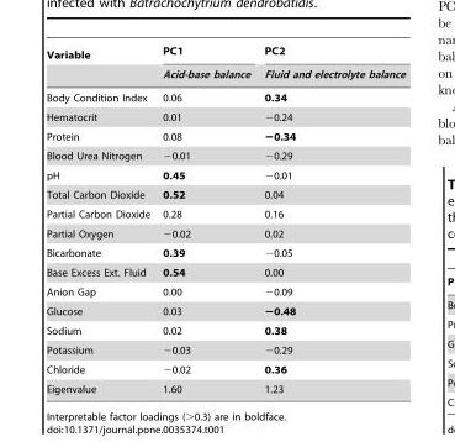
<table><thead><tr><td rowspan="2">Variable</td><td rowspan="2">PC1 Acid-base balance</td><td rowspan="2">PC2 Fluid and electrolyte balance</td></tr><tr></tr></thead><tbody><tr><td>Body Condition Index</td><td>0.06</td><td>0.34</td></tr><tr><td>Hematocrit</td><td>0.01</td><td>−0.24</td></tr><tr><td>Protein</td><td>0.08</td><td>−0.34</td></tr><tr><td>Blood Urea Nitrogen</td><td>−0.01</td><td>−0.29</td></tr><tr><td>pH</td><td>0.45</td><td>−0.01</td></tr><tr><td>Total Carbon Dioxide</td><td>0.52</td><td>0.04</td></tr><tr><td>Partial Carbon Dioxide</td><td>0.28</td><td>0.16</td></tr><tr><td>Partial Oxygen</td><td>−0.02</td><td>0.02</td></tr><tr><td>Bicarbonate</td><td>0.39</td><td>−0.05</td></tr><tr><td>Base Excess Ext. Fluid</td><td>0.54</td><td>0.00</td></tr><tr><td>Anion Gap</td><td>0.00</td><td>−0.09</td></tr><tr><td>Glucose</td><td>0.03</td><td>−0.48</td></tr><tr><td>Sodium</td><td>0.02</td><td>0.38</td></tr><tr><td>Potassium</td><td>−0.03</td><td>−0.29</td></tr><tr><td>Chloride</td><td>−0.02</td><td>0.36</td></tr><tr><td>Eigenvalue</td><td>1.60</td><td>1.23</td></tr></tbody></table>